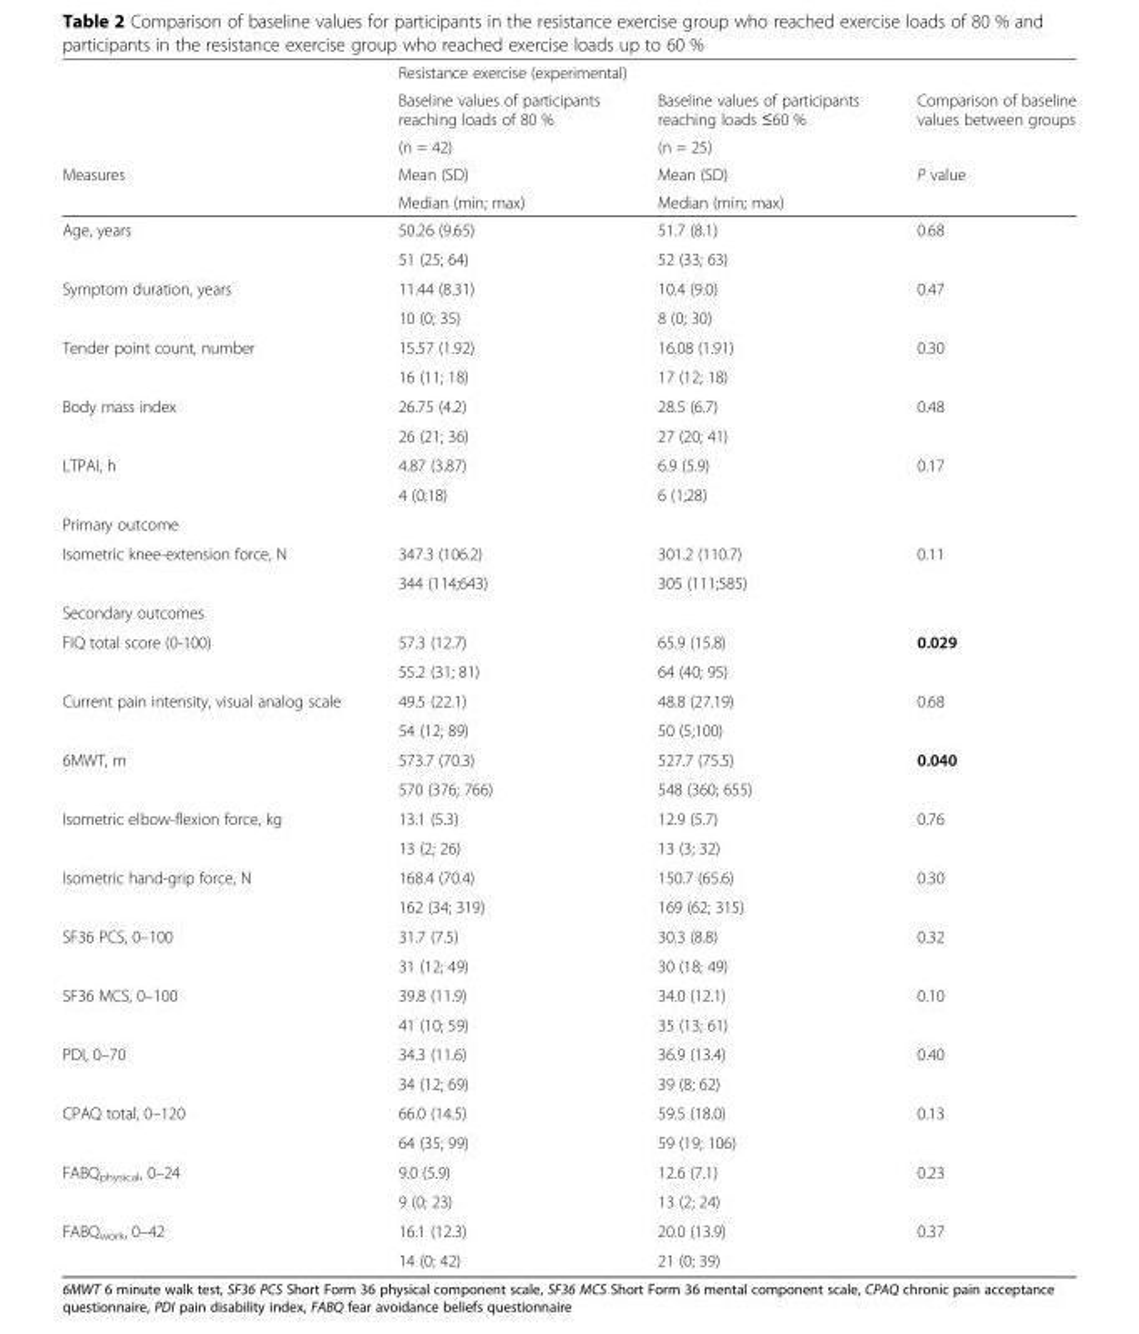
<table><thead><tr><td rowspan="5">Measures</td><td colspan="2">Resistance exercise (experimental)</td><td rowspan="5">Comparison of baseline values between groups P value</td></tr><tr><td rowspan="4">Baseline values of participants reaching loads of 80 % (n = 42) Mean (SD) Median (min; max)</td><td rowspan="4">Baseline values of participants reaching loads ≤60 % (n = 25) Mean (SD) Median (min; max)</td></tr><tr></tr><tr></tr><tr></tr></thead><tbody><tr><td rowspan="2">Age, years</td><td>50.26 (9.65)</td><td>51.7 (8.1)</td><td rowspan="2">0.68</td></tr><tr><td>51 (25; 64)</td><td>52 (33; 63)</td></tr><tr><td rowspan="2">Symptom duration, years</td><td>11.44 (8.31)</td><td>10.4 (9.0)</td><td rowspan="2">0.47</td></tr><tr><td>10 (0; 35)</td><td>8 (0; 30)</td></tr><tr><td rowspan="2">Tender point count, number</td><td>15.57 (1.92)</td><td>16.08 (1.91)</td><td rowspan="2">0.30</td></tr><tr><td>16 (11; 18)</td><td>17 (12; 18)</td></tr><tr><td rowspan="2">Body mass index</td><td>26.75 (4.2)</td><td>28.5 (6.7)</td><td rowspan="2">0.48</td></tr><tr><td>26 (21; 36)</td><td>27 (20; 41)</td></tr><tr><td rowspan="2">LTPAI, h</td><td>4.87 (3.87)</td><td>6.9 (5.9)</td><td rowspan="2">0.17</td></tr><tr><td>4 (0;18)</td><td>6 (1;28)</td></tr><tr><td colspan="4">Primary outcome</td></tr><tr><td rowspan="2">Isometric knee-extension force, N</td><td>347.3 (106.2)</td><td>301.2 (110.7)</td><td rowspan="2">0.11</td></tr><tr><td>344 (114;643)</td><td>305 (111;585)</td></tr><tr><td colspan="4">Secondary outcomes</td></tr><tr><td rowspan="2">FIQ total score (0-100)</td><td>57.3 (12.7)</td><td>65.9 (15.8)</td><td rowspan="2">0.029</td></tr><tr><td>55.2 (31; 81)</td><td>64 (40; 95)</td></tr><tr><td rowspan="2">Current pain intensity, visual analog scale</td><td>49.5 (22.1)</td><td>48.8 (27.19)</td><td rowspan="2">0.68</td></tr><tr><td>54 (12; 89)</td><td>50 (5;100)</td></tr><tr><td rowspan="2">6MWT, m</td><td>573.7 (70.3)</td><td>527.7 (75.5)</td><td rowspan="2">0.040</td></tr><tr><td>570 (376; 766)</td><td>548 (360; 655)</td></tr><tr><td rowspan="2">Isometric elbow-flexion force, kg</td><td>13.1 (5.3)</td><td>12.9 (5.7)</td><td rowspan="2">0.76</td></tr><tr><td>13 (2; 26)</td><td>13 (3; 32)</td></tr><tr><td rowspan="2">Isometric hand-grip force, N</td><td>168.4 (70.4)</td><td>150.7 (65.6)</td><td rowspan="2">0.30</td></tr><tr><td>162 (34; 319)</td><td>169 (62; 315)</td></tr><tr><td rowspan="2">SF36 PCS, 0–100</td><td>31.7 (7.5)</td><td>30.3 (8.8)</td><td rowspan="2">0.32</td></tr><tr><td>31 (12; 49)</td><td>30 (18; 49)</td></tr><tr><td rowspan="2">SF36 MCS, 0–100</td><td>39.8 (11.9)</td><td>34.0 (12.1)</td><td rowspan="2">0.10</td></tr><tr><td>41 (10; 59)</td><td>35 (13; 61)</td></tr><tr><td rowspan="2">PDI, 0–70</td><td>34.3 (11.6)</td><td>36.9 (13.4)</td><td rowspan="2">0.40</td></tr><tr><td>34 (12; 69)</td><td>39 (8; 62)</td></tr><tr><td rowspan="2">CPAQ total, 0–120</td><td>66.0 (14.5)</td><td>59.5 (18.0)</td><td rowspan="2">0.13</td></tr><tr><td>64 (35; 99)</td><td>59 (19; 106)</td></tr><tr><td rowspan="2">FABQ<sub>physical</sub>, 0–24</td><td>9.0 (5.9)</td><td>12.6 (7.1)</td><td rowspan="2">0.23</td></tr><tr><td>9 (0; 23)</td><td>13 (2; 24)</td></tr><tr><td rowspan="2">FABQ<sub>work</sub>, 0–42</td><td>16.1 (12.3)</td><td>20.0 (13.9)</td><td rowspan="2">0.37</td></tr><tr><td>14 (0; 42)</td><td>21 (0; 39)</td></tr></tbody></table>